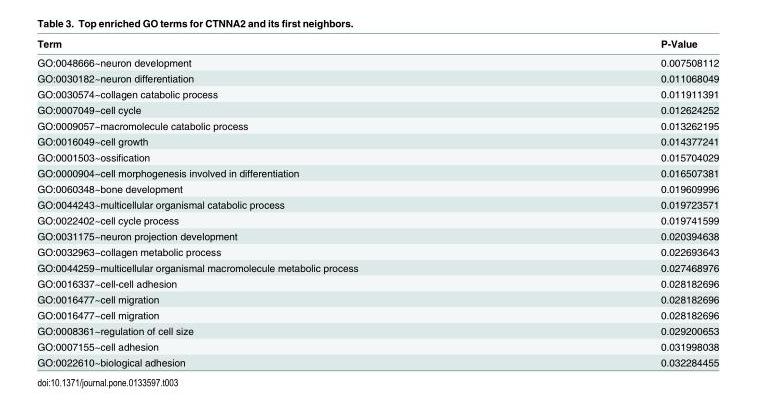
<table><thead><tr><td>Term</td><td>P-Value</td></tr></thead><tbody><tr><td>GO:0048666~neuron development</td><td>0.007508112</td></tr><tr><td>GO:0030182~neuron differentiation</td><td>0.011068049</td></tr><tr><td>GO:0030574~collagen catabolic process</td><td>0.011911391</td></tr><tr><td>GO:0007049~cell cycle</td><td>0.012624252</td></tr><tr><td>GO:0009057~macromolecule catabolic process</td><td>0.013262195</td></tr><tr><td>GO:0016049~cell growth</td><td>0.014377241</td></tr><tr><td>GO:0001503~ossification</td><td>0.015704029</td></tr><tr><td>GO:0000904~cell morphogenesis involved in differentiation</td><td>0.016507381</td></tr><tr><td>GO:0060348~bone development</td><td>0.019609996</td></tr><tr><td>GO:0044243~multicellular organismal catabolic process</td><td>0.019723571</td></tr><tr><td>GO:0022402~cell cycle process</td><td>0.019741599</td></tr><tr><td>GO:0031175~neuron projection development</td><td>0.020394638</td></tr><tr><td>GO:0032963~collagen metabolic process</td><td>0.022693643</td></tr><tr><td>GO:0044259~multicellular organismal macromolecule metabolic process</td><td>0.027468976</td></tr><tr><td>GO:0016337~cell-cell adhesion</td><td>0.028182696</td></tr><tr><td>GO:0016477~cell migration</td><td>0.028182696</td></tr><tr><td>GO:0016477~cell migration</td><td>0.028182696</td></tr><tr><td>GO:0008361~regulation of cell size</td><td>0.029200653</td></tr><tr><td>GO:0007155~cell adhesion</td><td>0.031998038</td></tr><tr><td>GO:0022610~biological adhesion</td><td>0.032284455</td></tr></tbody></table>